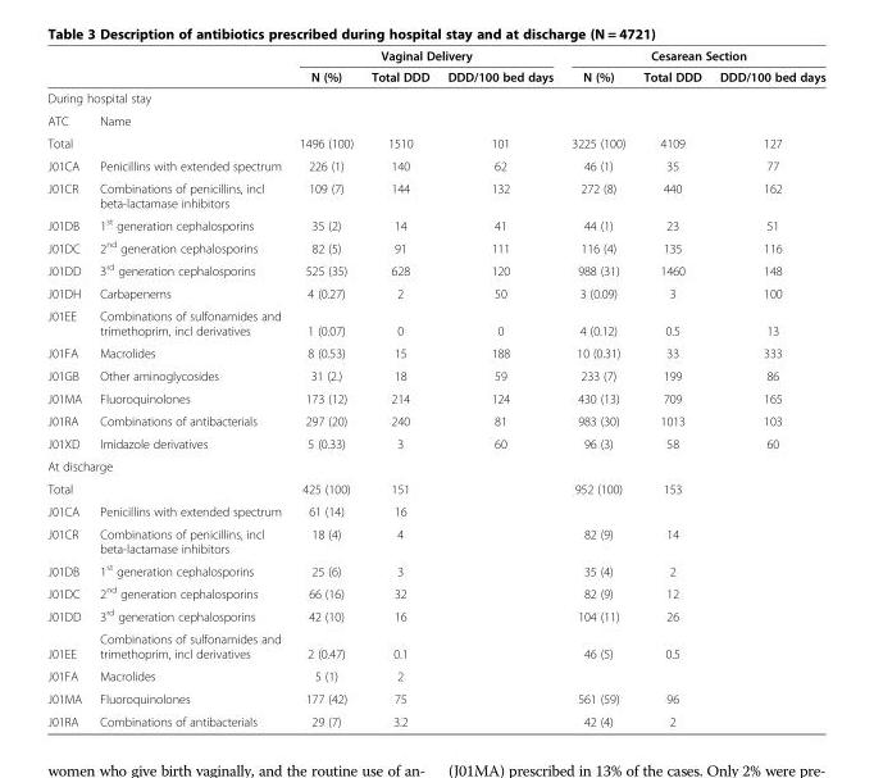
<table><thead><tr><td rowspan="2"></td><td rowspan="2"></td><td colspan="3">Vaginal Delivery</td><td colspan="3">Cesarean Section</td></tr><tr><td>N (%)</td><td>Total DDD</td><td>DDD/100 bed days</td><td>N (%)</td><td>Total DDD</td><td>DDD/100 bed days</td></tr></thead><tbody><tr><td colspan="8">During hospital stay</td></tr><tr><td>ATC</td><td>Name</td><td></td><td></td><td></td><td></td><td></td><td></td></tr><tr><td>Total</td><td></td><td>1496 (100)</td><td>1510</td><td>101</td><td>3225 (100)</td><td>4109</td><td>127</td></tr><tr><td>J01CA</td><td>Penicillins with extended spectrum</td><td>226 (1)</td><td>140</td><td>62</td><td>46 (1)</td><td>35</td><td>77</td></tr><tr><td>J01CR</td><td>Combinations of penicillins, incl beta-lactamase inhibitors</td><td>109 (7)</td><td>144</td><td>132</td><td>272 (8)</td><td>440</td><td>162</td></tr><tr><td>J01DB</td><td>1<sup>st</sup> generation cephalosporins</td><td>35 (2)</td><td>14</td><td>41</td><td>44 (1)</td><td>23</td><td>51</td></tr><tr><td>J01DC</td><td>2<sup>nd</sup> generation cephalosporins</td><td>82 (5)</td><td>91</td><td>111</td><td>116 (4)</td><td>135</td><td>116</td></tr><tr><td>J01DD</td><td>3<sup>rd</sup> generation cephalosporins</td><td>525 (35)</td><td>628</td><td>120</td><td>988 (31)</td><td>1460</td><td>148</td></tr><tr><td>J01DH</td><td>Carbapenems</td><td>4 (0.27)</td><td>2</td><td>50</td><td>3 (0.09)</td><td>3</td><td>100</td></tr><tr><td>J01EE</td><td>Combinations of sulfonamides and trimethoprim, incl derivatives</td><td>1 (0.07)</td><td>0</td><td>0</td><td>4 (0.12)</td><td>0.5</td><td>13</td></tr><tr><td>J01FA</td><td>Macrolides</td><td>8 (0.53)</td><td>15</td><td>188</td><td>10 (0.31)</td><td>33</td><td>333</td></tr><tr><td>J01GB</td><td>Other aminoglycosides</td><td>31 (2.)</td><td>18</td><td>59</td><td>233 (7)</td><td>199</td><td>86</td></tr><tr><td>J01MA</td><td>Fluoroquinolones</td><td>173 (12)</td><td>214</td><td>124</td><td>430 (13)</td><td>709</td><td>165</td></tr><tr><td>J01RA</td><td>Combinations of antibacterials</td><td>297 (20)</td><td>240</td><td>81</td><td>983 (30)</td><td>1013</td><td>103</td></tr><tr><td>J01XD</td><td>Imidazole derivatives</td><td>5 (0.33)</td><td>3</td><td>60</td><td>96 (3)</td><td>58</td><td>60</td></tr><tr><td colspan="8">At discharge</td></tr><tr><td>Total</td><td></td><td>425 (100)</td><td>151</td><td></td><td>952 (100)</td><td>153</td><td></td></tr><tr><td>J01CA</td><td>Penicillins with extended spectrum</td><td>61 (14)</td><td>16</td><td></td><td></td><td></td><td></td></tr><tr><td>J01CR</td><td>Combinations of penicillins, incl beta-lactamase inhibitors</td><td>18 (4)</td><td>4</td><td></td><td>82 (9)</td><td>14</td><td></td></tr><tr><td>J01DB</td><td>1<sup>st</sup> generation cephalosporins</td><td>25 (6)</td><td>3</td><td></td><td>35 (4)</td><td>2</td><td></td></tr><tr><td>J01DC</td><td>2<sup>nd</sup> generation cephalosporins</td><td>66 (16)</td><td>32</td><td></td><td>82 (9)</td><td>12</td><td></td></tr><tr><td>J01DD</td><td>3<sup>rd</sup> generation cephalosporins</td><td>42 (10)</td><td>16</td><td></td><td>104 (11)</td><td>26</td><td></td></tr><tr><td>J01EE</td><td>Combinations of sulfonamides and trimethoprim, incl derivatives</td><td>2 (0.47)</td><td>0.1</td><td></td><td>46 (5)</td><td>0.5</td><td></td></tr><tr><td>J01FA</td><td>Macrolides</td><td>5 (1)</td><td>2</td><td></td><td></td><td></td><td></td></tr><tr><td>J01MA</td><td>Fluoroquinolones</td><td>177 (42)</td><td>75</td><td></td><td>561 (59)</td><td>96</td><td></td></tr><tr><td>J01RA</td><td>Combinations of antibacterials</td><td>29 (7)</td><td>3.2</td><td></td><td>42 (4)</td><td>2</td><td></td></tr></tbody></table>